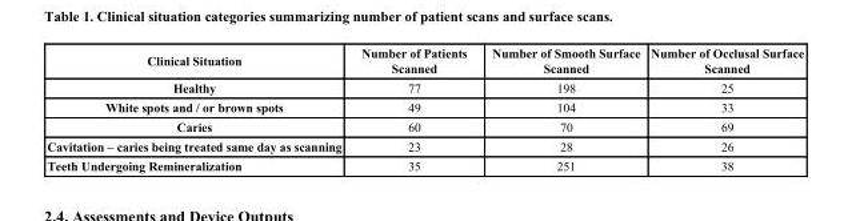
<table><thead><tr><td>Clinical Situation</td><td>Number of Patients Scanned</td><td>Number of Smooth Surface Scanned</td><td>Number of Occlusal Surface Scanned</td></tr></thead><tbody><tr><td>Healthy</td><td>77</td><td>198</td><td>25</td></tr><tr><td>White spots and / or brown spots</td><td>49</td><td>104</td><td>33</td></tr><tr><td>Caries</td><td>60</td><td>70</td><td>69</td></tr><tr><td>Cavitation – caries being treated same day as scanning</td><td>23</td><td>28</td><td>26</td></tr><tr><td>Teeth Undergoing Remineralization</td><td>35</td><td>251</td><td>38</td></tr></tbody></table>